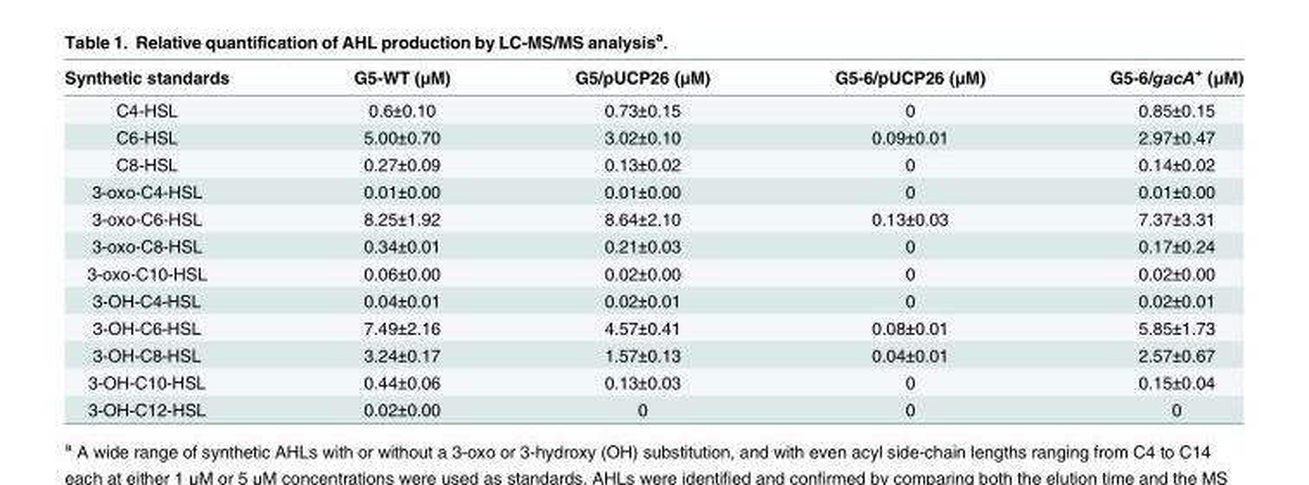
<table><thead><tr><td>Synthetic standards</td><td>G5-WT (μM)</td><td>G5/pUCP26 (μM)</td><td>G5-6/pUCP26 (μM)</td><td>G5-6/gacA<sup>+</sup> (μM)</td></tr></thead><tbody><tr><td>C4-HSL</td><td>0.6±0.10</td><td>0.73±0.15</td><td>0</td><td>0.85±0.15</td></tr><tr><td>C6-HSL</td><td>5.00±0.70</td><td>3.02±0.10</td><td>0.09±0.01</td><td>2.97±0.47</td></tr><tr><td>C8-HSL</td><td>0.27±0.09</td><td>0.13±0.02</td><td>0</td><td>0.14±0.02</td></tr><tr><td>3-oxo-C4-HSL</td><td>0.01±0.00</td><td>0.01±0.00</td><td>0</td><td>0.01±0.00</td></tr><tr><td>3-oxo-C6-HSL</td><td>8.25±1.92</td><td>8.64±2.10</td><td>0.13±0.03</td><td>7.37±3.31</td></tr><tr><td>3-oxo-C8-HSL</td><td>0.34±0.01</td><td>0.21±0.03</td><td>0</td><td>0.17±0.24</td></tr><tr><td>3-oxo-C10-HSL</td><td>0.06±0.00</td><td>0.02±0.00</td><td>0</td><td>0.02±0.00</td></tr><tr><td>3-OH-C4-HSL</td><td>0.04±0.01</td><td>0.02±0.01</td><td>0</td><td>0.02±0.01</td></tr><tr><td>3-OH-C6-HSL</td><td>7.49±2.16</td><td>4.57±0.41</td><td>0.08±0.01</td><td>5.85±1.73</td></tr><tr><td>3-OH-C8-HSL</td><td>3.24±0.17</td><td>1.57±0.13</td><td>0.04±0.01</td><td>2.57±0.67</td></tr><tr><td>3-OH-C10-HSL</td><td>0.44±0.06</td><td>0.13±0.03</td><td>0</td><td>0.15±0.04</td></tr><tr><td>3-OH-C12-HSL</td><td>0.02±0.00</td><td>0</td><td>0</td><td>0</td></tr></tbody></table>